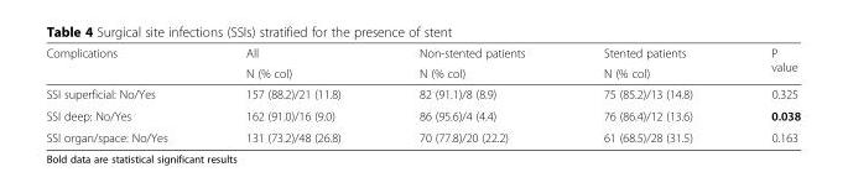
<table><thead><tr><td rowspan="2">Complications</td><td rowspan="2">All N (% col)</td><td rowspan="2">Non-stented patients N (% col)</td><td rowspan="2">Stented patients N (% col)</td><td rowspan="2">P value</td></tr><tr></tr></thead><tbody><tr><td>SSI superficial: No/Yes</td><td>157 (88.2)/21 (11.8)</td><td>82 (91.1)/8 (8.9)</td><td>75 (85.2)/13 (14.8)</td><td>0.325</td></tr><tr><td>SSI deep: No/Yes</td><td>162 (91.0)/16 (9.0)</td><td>86 (95.6)/4 (4.4)</td><td>76 (86.4)/12 (13.6)</td><td>0.038</td></tr><tr><td>SSI organ/space: No/Yes</td><td>131 (73.2)/48 (26.8)</td><td>70 (77.8)/20 (22.2)</td><td>61 (68.5)/28 (31.5)</td><td>0.163</td></tr></tbody></table>